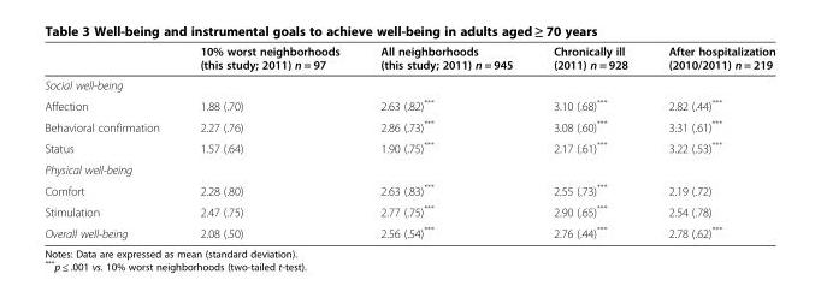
<table><thead><tr><td></td><td>10% worst neighborhoods (this study; 2011) n = 97</td><td>All neighborhoods (this study; 2011) n = 945</td><td>Chronically ill (2011) n = 928</td><td>After hospitalization (2010/2011) n = 219</td></tr></thead><tbody><tr><td colspan="5">Social well-being</td></tr><tr><td>Affection</td><td>1.88 (.70)</td><td>2.63 (.82)***</td><td>3.10 (.68)***</td><td>2.82 (.44)***</td></tr><tr><td>Behavioral confirmation</td><td>2.27 (.76)</td><td>2.86 (.73)***</td><td>3.08 (.60)***</td><td>3.31 (.61)***</td></tr><tr><td>Status</td><td>1.57 (.64)</td><td>1.90 (.75)***</td><td>2.17 (.61)***</td><td>3.22 (.53)***</td></tr><tr><td colspan="5">Physical well-being</td></tr><tr><td>Comfort</td><td>2.28 (.80)</td><td>2.63 (.83)***</td><td>2.55 (.73)***</td><td>2.19 (.72)</td></tr><tr><td>Stimulation</td><td>2.47 (.75)</td><td>2.77 (.75)***</td><td>2.90 (.65)***</td><td>2.54 (.78)</td></tr><tr><td>Overall well-being</td><td>2.08 (.50)</td><td>2.56 (.54)***</td><td>2.76 (.44)***</td><td>2.78 (.62)***</td></tr></tbody></table>